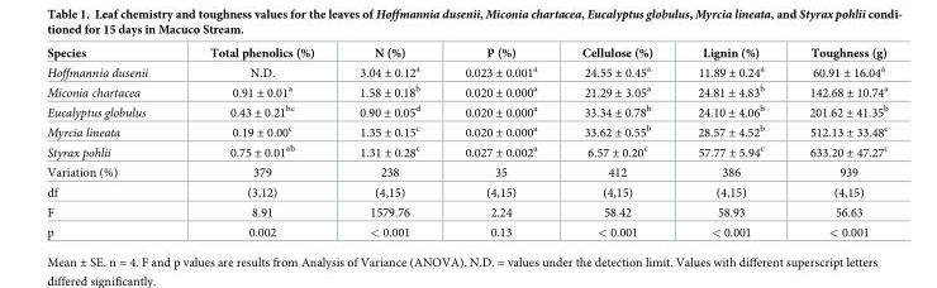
<table><thead><tr><td>Species</td><td>Total phenolics (%)</td><td>N (%)</td><td>P (%)</td><td>Cellulose (%)</td><td>Lignin (%)</td><td>Toughness (g)</td></tr></thead><tbody><tr><td>Hoffmannia dusenii</td><td>N.D.</td><td>3.04 ± 0.12<sup>a</sup></td><td>0.023 ± 0.001<sup>a</sup></td><td>24.55 ± 0.45<sup>a</sup></td><td>11.89 ± 0.24<sup>a</sup></td><td>60.91 ± 16.04<sup>a</sup></td></tr><tr><td>Miconia chartacea</td><td>0.91 ± 0.01<sup>a</sup></td><td>1.58 ± 0.18<sup>b</sup></td><td>0.020 ± 0.000<sup>a</sup></td><td>21.29 ± 3.05<sup>a</sup></td><td>24.81 ± 4.83<sup>b</sup></td><td>142.68 ± 10.74<sup>a</sup></td></tr><tr><td>Eucalyptus globulus</td><td>0.43 ± 0.21<sup>bc</sup></td><td>0.90 ± 0.05<sup>d</sup></td><td>0.020 ± 0.000<sup>a</sup></td><td>33.34 ± 0.78<sup>b</sup></td><td>24.10 ± 4.06<sup>b</sup></td><td>201.62 ± 41.35<sup>b</sup></td></tr><tr><td>Myrcia lineata</td><td>0.19 ± 0.00<sup>c</sup></td><td>1.35 ± 0.15<sup>c</sup></td><td>0.020 ± 0.000<sup>a</sup></td><td>33.62 ± 0.55<sup>b</sup></td><td>28.57 ± 4.52<sup>b</sup></td><td>512.13 ± 33.48<sup>c</sup></td></tr><tr><td>Styrax pohlii</td><td>0.75 ± 0.01<sup>ab</sup></td><td>1.31 ± 0.28<sup>c</sup></td><td>0.027 ± 0.002<sup>a</sup></td><td>6.57 ± 0.20<sup>c</sup></td><td>57.77 ± 5.94<sup>c</sup></td><td>633.20 ± 47.27<sup>c</sup></td></tr><tr><td>Variation (%)</td><td>379</td><td>238</td><td>35</td><td>412</td><td>386</td><td>939</td></tr><tr><td>df</td><td>(3,12)</td><td>(4,15)</td><td>(4,15)</td><td>(4,15)</td><td>(4,15)</td><td>(4,15)</td></tr><tr><td>F</td><td>8.91</td><td>1579.76</td><td>2.24</td><td>58.42</td><td>58.93</td><td>56.63</td></tr><tr><td>p</td><td>0.002</td><td>&lt; 0.001</td><td>0.13</td><td>&lt; 0.001</td><td>&lt; 0.001</td><td>&lt; 0.001</td></tr></tbody></table>